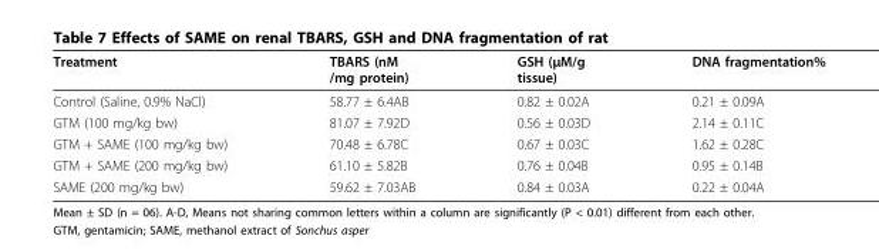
<table><thead><tr><td>Treatment</td><td>TBARS (nM /mg protein)</td><td>GSH (μM/g tissue)</td><td>DNA fragmentation%</td></tr></thead><tbody><tr><td>Control (Saline, 0.9% NaCl)</td><td>58.77 ± 6.4AB</td><td>0.82 ± 0.02A</td><td>0.21 ± 0.09A</td></tr><tr><td>GTM (100 mg/kg bw)</td><td>81.07 ± 7.92D</td><td>0.56 ± 0.03D</td><td>2.14 ± 0.11C</td></tr><tr><td>GTM + SAME (100 mg/kg bw)</td><td>70.48 ± 6.78C</td><td>0.67 ± 0.03C</td><td>1.62 ± 0.28C</td></tr><tr><td>GTM + SAME (200 mg/kg bw)</td><td>61.10 ± 5.82B</td><td>0.76 ± 0.04B</td><td>0.95 ± 0.14B</td></tr><tr><td>SAME (200 mg/kg bw)</td><td>59.62 ± 7.03AB</td><td>0.84 ± 0.03A</td><td>0.22 ± 0.04A</td></tr></tbody></table>